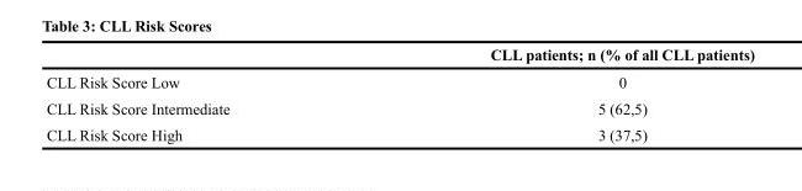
<table><thead><tr><td></td><td>CLL patients; n (% of all CLL patients)</td></tr></thead><tbody><tr><td>CLL Risk Score Low</td><td>0</td></tr><tr><td>CLL Risk Score Intermediate</td><td>5 (62,5)</td></tr><tr><td>CLL Risk Score High</td><td>3 (37,5)</td></tr></tbody></table>